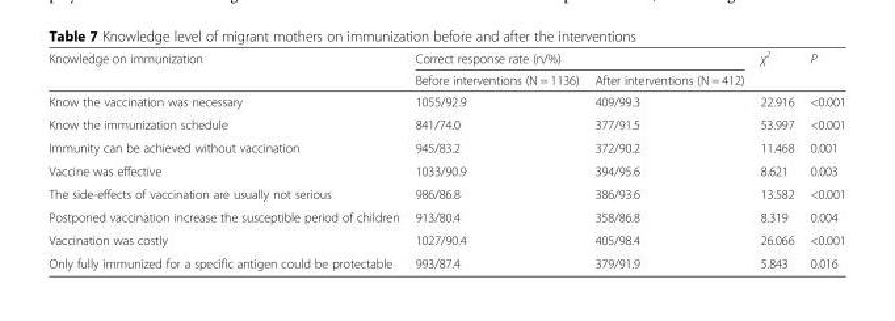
<table><thead><tr><td rowspan="2">Knowledge on immunization</td><td colspan="2">Correct response rate (n/%)</td><td rowspan="2">χ<sup>2</sup></td><td rowspan="2">P</td></tr><tr><td>Before interventions (N = 1136)</td><td>After interventions (N = 412)</td></tr></thead><tbody><tr><td>Know the vaccination was necessary</td><td>1055/92.9</td><td>409/99.3</td><td>22.916</td><td>&lt;0.001</td></tr><tr><td>Know the immunization schedule</td><td>841/74.0</td><td>377/91.5</td><td>53.997</td><td>&lt;0.001</td></tr><tr><td>Immunity can be achieved without vaccination</td><td>945/83.2</td><td>372/90.2</td><td>11.468</td><td>0.001</td></tr><tr><td>Vaccine was effective</td><td>1033/90.9</td><td>394/95.6</td><td>8.621</td><td>0.003</td></tr><tr><td>The side-effects of vaccination are usually not serious</td><td>986/86.8</td><td>386/93.6</td><td>13.582</td><td>&lt;0.001</td></tr><tr><td>Postponed vaccination increase the susceptible period of children</td><td>913/80.4</td><td>358/86.8</td><td>8.319</td><td>0.004</td></tr><tr><td>Vaccination was costly</td><td>1027/90.4</td><td>405/98.4</td><td>26.066</td><td>&lt;0.001</td></tr><tr><td>Only fully immunized for a specific antigen could be protectable</td><td>993/87.4</td><td>379/91.9</td><td>5.843</td><td>0.016</td></tr></tbody></table>